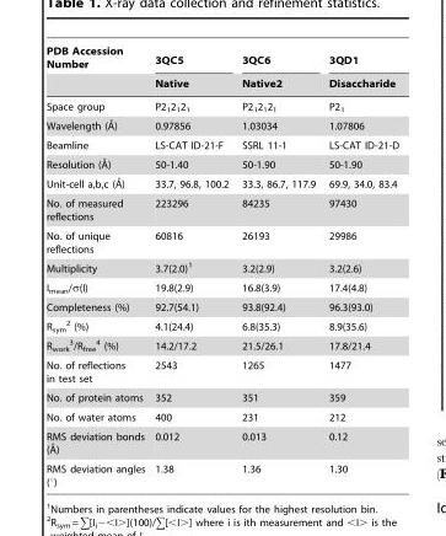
<table><thead><tr><td rowspan="2">PDB Accession Number</td><td rowspan="2">3QC5 Native</td><td rowspan="2">3QC6 Native2</td><td rowspan="2">3QD1 Disaccharide</td></tr><tr></tr></thead><tbody><tr><td>Space group</td><td>P2<sub>1</sub>2<sub>1</sub>2<sub>1</sub></td><td>P2<sub>1</sub>2<sub>1</sub>2<sub>1</sub></td><td>P2<sub>1</sub></td></tr><tr><td>Wavelength (A˚)</td><td>0.97856</td><td>1.03034</td><td>1.07806</td></tr><tr><td>Beamline</td><td>LS-CAT ID-21-F</td><td>SSRL 11-1</td><td>LS-CAT ID-21-D</td></tr><tr><td>Resolution (A˚)</td><td>50-1.40</td><td>50-1.90</td><td>50-1.90</td></tr><tr><td>Unit-cell a,b,c (A˚)</td><td>33.7, 96.8, 100.2</td><td>33.3, 86.7, 117.9</td><td>69.9, 34.0, 83.4</td></tr><tr><td>No. of measured reflections</td><td>223296</td><td>84235</td><td>97430</td></tr><tr><td>No. of unique reflections</td><td>60816</td><td>26193</td><td>29986</td></tr><tr><td>Multiplicity</td><td>3.7(2.0)<sup>1</sup></td><td>3.2(2.9)</td><td>3.2(2.6)</td></tr><tr><td>I<sub>mean</sub>/σ(I)</td><td>19.8(2.9)</td><td>16.8(3.9)</td><td>17.4(4.8)</td></tr><tr><td>Completeness (%)</td><td>92.7(54.1)</td><td>93.8(92.4)</td><td>96.3(93.0)</td></tr><tr><td>R<sub>sym</sub> 2 (%)</td><td>4.1(24.4)</td><td>6.8(35.3)</td><td>8.9(35.6)</td></tr><tr><td>R<sub>work</sub> 3/R<sub>free</sub> 4 (%)</td><td>14.2/17.2</td><td>21.5/26.1</td><td>17.8/21.4</td></tr><tr><td>No. of reflections in test set</td><td>2543</td><td>1265</td><td>1477</td></tr><tr><td>No. of protein atoms</td><td>352</td><td>351</td><td>359</td></tr><tr><td>No. of water atoms</td><td>400</td><td>231</td><td>212</td></tr><tr><td>RMS deviation bonds (A˚)</td><td>0.012</td><td>0.013</td><td>0.12</td></tr><tr><td>RMS deviation angles (°)</td><td>1.38</td><td>1.36</td><td>1.30</td></tr></tbody></table>